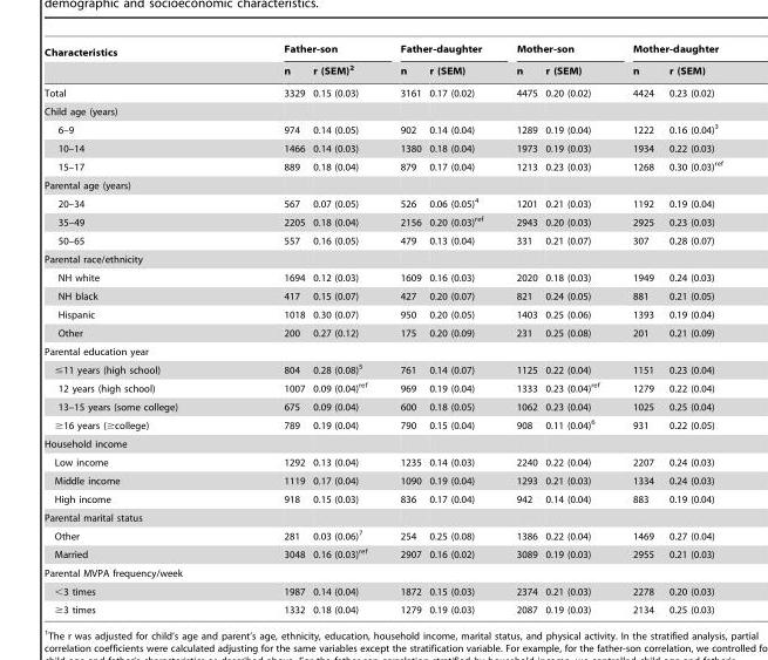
<table><thead><tr><td rowspan="2">Characteristics</td><td colspan="2">Father-son</td><td colspan="2">Father-daughter</td><td colspan="2">Mother-son</td><td colspan="2">Mother-daughter</td></tr><tr><td>n</td><td>r (SEM)<sup>2</sup></td><td>n</td><td>r (SEM)</td><td>n</td><td>r (SEM)</td><td>n</td><td>r (SEM)</td></tr></thead><tbody><tr><td>Total</td><td>3329</td><td>0.15 (0.03)</td><td>3161</td><td>0.17 (0.02)</td><td>4475</td><td>0.20 (0.02)</td><td>4424</td><td>0.23 (0.02)</td></tr><tr><td colspan="9">Child age (years)</td></tr><tr><td>6–9</td><td>974</td><td>0.14 (0.05)</td><td>902</td><td>0.14 (0.04)</td><td>1289</td><td>0.19 (0.04)</td><td>1222</td><td>0.16 (0.04)<sup>3</sup></td></tr><tr><td>10–14</td><td>1466</td><td>0.14 (0.03)</td><td>1380</td><td>0.18 (0.04)</td><td>1973</td><td>0.19 (0.03)</td><td>1934</td><td>0.22 (0.03)</td></tr><tr><td>15–17</td><td>889</td><td>0.18 (0.04)</td><td>879</td><td>0.17 (0.04)</td><td>1213</td><td>0.23 (0.03)</td><td>1268</td><td>0.30 (0.03)<sup>ref</sup></td></tr><tr><td colspan="9">Parental age (years)</td></tr><tr><td>20–34</td><td>567</td><td>0.07 (0.05)</td><td>526</td><td>0.06 (0.05)<sup>4</sup></td><td>1201</td><td>0.21 (0.03)</td><td>1192</td><td>0.19 (0.04)</td></tr><tr><td>35–49</td><td>2205</td><td>0.18 (0.04)</td><td>2156</td><td>0.20 (0.03)<sup>ref</sup></td><td>2943</td><td>0.20 (0.03)</td><td>2925</td><td>0.23 (0.03)</td></tr><tr><td>50–65</td><td>557</td><td>0.16 (0.05)</td><td>479</td><td>0.13 (0.04)</td><td>331</td><td>0.21 (0.07)</td><td>307</td><td>0.28 (0.07)</td></tr><tr><td colspan="9">Parental race/ethnicity</td></tr><tr><td>NH white</td><td>1694</td><td>0.12 (0.03)</td><td>1609</td><td>0.16 (0.03)</td><td>2020</td><td>0.18 (0.03)</td><td>1949</td><td>0.24 (0.03)</td></tr><tr><td>NH black</td><td>417</td><td>0.15 (0.07)</td><td>427</td><td>0.20 (0.07)</td><td>821</td><td>0.24 (0.05)</td><td>881</td><td>0.21 (0.05)</td></tr><tr><td>Hispanic</td><td>1018</td><td>0.30 (0.07)</td><td>950</td><td>0.20 (0.05)</td><td>1403</td><td>0.25 (0.06)</td><td>1393</td><td>0.19 (0.04)</td></tr><tr><td>Other</td><td>200</td><td>0.27 (0.12)</td><td>175</td><td>0.20 (0.09)</td><td>231</td><td>0.25 (0.08)</td><td>201</td><td>0.21 (0.09)</td></tr><tr><td colspan="9">Parental education year</td></tr><tr><td>≤11 years (high school)</td><td>804</td><td>0.28 (0.08)<sup>5</sup></td><td>761</td><td>0.14 (0.07)</td><td>1125</td><td>0.22 (0.04)</td><td>1151</td><td>0.23 (0.04)</td></tr><tr><td>12 years (high school)</td><td>1007</td><td>0.09 (0.04)<sup>ref</sup></td><td>969</td><td>0.19 (0.04)</td><td>1333</td><td>0.23 (0.04)<sup>ref</sup></td><td>1279</td><td>0.22 (0.04)</td></tr><tr><td>13–15 years (some college)</td><td>675</td><td>0.09 (0.04)</td><td>600</td><td>0.18 (0.05)</td><td>1062</td><td>0.23 (0.04)</td><td>1025</td><td>0.25 (0.04)</td></tr><tr><td>≥16 years (≥college)</td><td>789</td><td>0.19 (0.04)</td><td>790</td><td>0.15 (0.04)</td><td>908</td><td>0.11 (0.04)<sup>6</sup></td><td>931</td><td>0.22 (0.05)</td></tr><tr><td colspan="9">Household income</td></tr><tr><td>Low income</td><td>1292</td><td>0.13 (0.04)</td><td>1235</td><td>0.14 (0.03)</td><td>2240</td><td>0.22 (0.04)</td><td>2207</td><td>0.24 (0.03)</td></tr><tr><td>Middle income</td><td>1119</td><td>0.17 (0.04)</td><td>1090</td><td>0.19 (0.04)</td><td>1293</td><td>0.21 (0.03)</td><td>1334</td><td>0.24 (0.03)</td></tr><tr><td>High income</td><td>918</td><td>0.15 (0.03)</td><td>836</td><td>0.17 (0.04)</td><td>942</td><td>0.14 (0.04)</td><td>883</td><td>0.19 (0.04)</td></tr><tr><td colspan="9">Parental marital status</td></tr><tr><td>Other</td><td>281</td><td>0.03 (0.06)<sup>7</sup></td><td>254</td><td>0.25 (0.08)</td><td>1386</td><td>0.22 (0.04)</td><td>1469</td><td>0.27 (0.04)</td></tr><tr><td>Married</td><td>3048</td><td>0.16 (0.03)<sup>ref</sup></td><td>2907</td><td>0.16 (0.02)</td><td>3089</td><td>0.19 (0.03)</td><td>2955</td><td>0.21 (0.03)</td></tr><tr><td colspan="9">Parental MVPA frequency/week</td></tr><tr><td>&lt;3 times</td><td>1987</td><td>0.14 (0.04)</td><td>1872</td><td>0.15 (0.03)</td><td>2374</td><td>0.21 (0.03)</td><td>2278</td><td>0.20 (0.03)</td></tr><tr><td>≥3 times</td><td>1332</td><td>0.18 (0.04)</td><td>1279</td><td>0.19 (0.03)</td><td>2087</td><td>0.19 (0.03)</td><td>2134</td><td>0.25 (0.03)</td></tr></tbody></table>